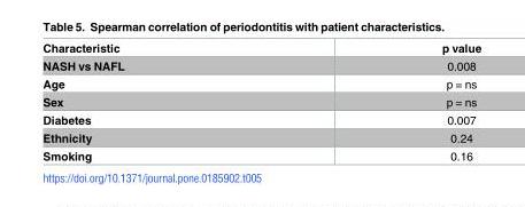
<table><thead><tr><td>Characteristic</td><td>p value</td></tr></thead><tbody><tr><td>NASH vs NAFL</td><td>0.008</td></tr><tr><td>Age</td><td>p = ns</td></tr><tr><td>Sex</td><td>p = ns</td></tr><tr><td>Diabetes</td><td>0.007</td></tr><tr><td>Ethnicity</td><td>0.24</td></tr><tr><td>Smoking</td><td>0.16</td></tr></tbody></table>